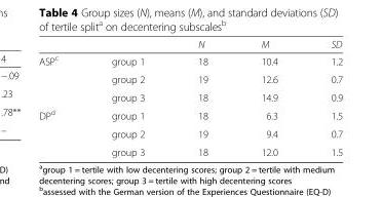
<table><thead><tr><td></td><td></td><td>N</td><td>M</td><td>SD</td></tr></thead><tbody><tr><td rowspan="3">ASP<sup>c</sup></td><td>group 1</td><td>18</td><td>10.4</td><td>1.2</td></tr><tr><td>group 2</td><td>19</td><td>12.6</td><td>0.7</td></tr><tr><td>group 3</td><td>18</td><td>14.9</td><td>0.9</td></tr><tr><td rowspan="3">DP<sup>d</sup></td><td>group 1</td><td>18</td><td>6.3</td><td>1.5</td></tr><tr><td>group 2</td><td>19</td><td>9.4</td><td>0.7</td></tr><tr><td>group 3</td><td>18</td><td>12.0</td><td>1.5</td></tr></tbody></table>